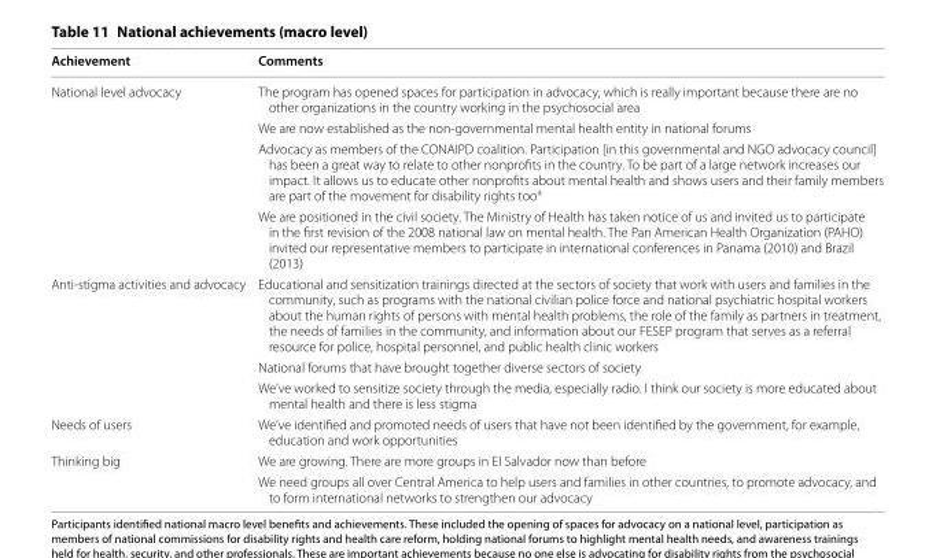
<table><thead><tr><td>Achievement</td><td>Comments</td></tr></thead><tbody><tr><td rowspan="4">National level advocacy</td><td>The program has opened spaces for participation in advocacy, which is really important because there are no other organizations in the country working in the psychosocial area</td></tr><tr><td>We are now established as the non-governmental mental health entity in national forums</td></tr><tr><td>Advocacy as members of the CONAIPD coalition. Participation [in this governmental and NGO advocacy council] has been a great way to relate to other nonprofits in the country. To be part of a large network increases our impact. It allows us to educate other nonprofits about mental health and shows users and their family members are part of the movement for disability rights too<sup>a</sup></td></tr><tr><td>We are positioned in the civil society. The Ministry of Health has taken notice of us and invited us to participate in the first revision of the 2008 national law on mental health. The Pan American Health Organization (PAHO) invited our representative members to participate in international conferences in Panama (2010) and Brazil (2013)</td></tr><tr><td rowspan="3">Anti-stigma activities and advocacy</td><td>Educational and sensitization trainings directed at the sectors of society that work with users and families in the community, such as programs with the national civilian police force and national psychiatric hospital workers about the human rights of persons with mental health problems, the role of the family as partners in treatment, the needs of families in the community, and information about our FESEP program that serves as a referral resource for police, hospital personnel, and public health clinic workers</td></tr><tr><td>National forums that have brought together diverse sectors of society</td></tr><tr><td>We’ve worked to sensitize society through the media, especially radio. I think our society is more educated about mental health and there is less stigma</td></tr><tr><td>Needs of users</td><td>We’ve identified and promoted needs of users that have not been identified by the government, for example, education and work opportunities</td></tr><tr><td rowspan="2">Thinking big</td><td>We are growing. There are more groups in El Salvador now than before</td></tr><tr><td>We need groups all over Central America to help users and families in other countries, to promote advocacy, and to form international networks to strengthen our advocacy</td></tr></tbody></table>